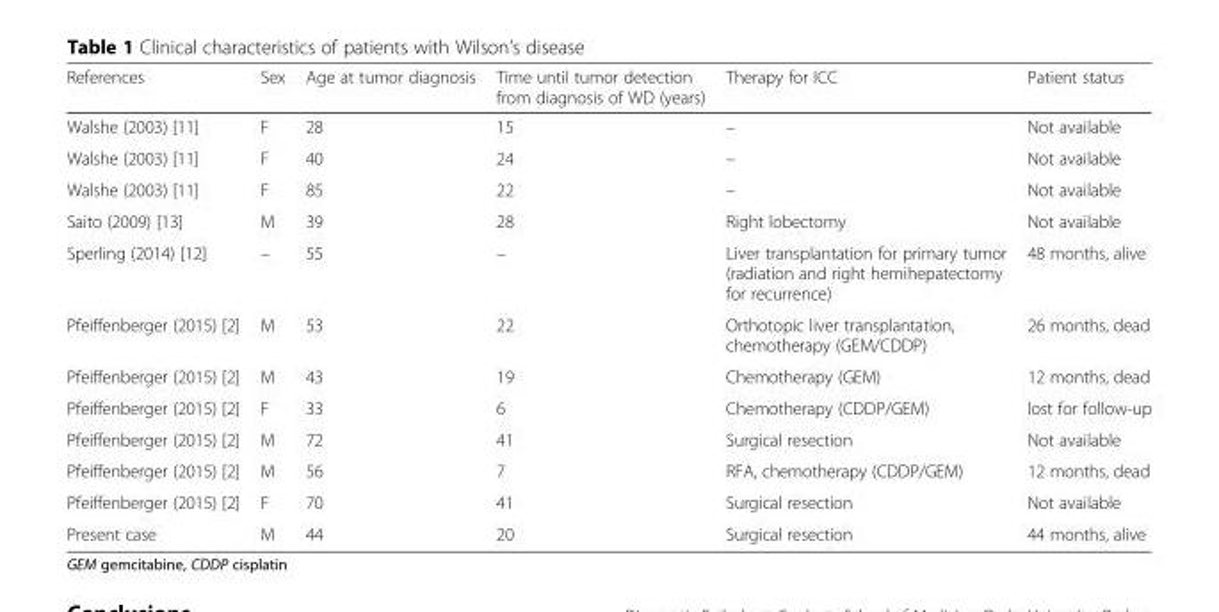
<table><thead><tr><td>References</td><td>Sex</td><td>Age at tumor diagnosis</td><td>Time until tumor detection from diagnosis of WD (years)</td><td>Therapy for ICC</td><td>Patient status</td></tr></thead><tbody><tr><td>Walshe (2003) [11]</td><td>F</td><td>28</td><td>15</td><td>–</td><td>Not available</td></tr><tr><td>Walshe (2003) [11]</td><td>F</td><td>40</td><td>24</td><td>–</td><td>Not available</td></tr><tr><td>Walshe (2003) [11]</td><td>F</td><td>85</td><td>22</td><td>–</td><td>Not available</td></tr><tr><td>Saito (2009) [13]</td><td>M</td><td>39</td><td>28</td><td>Right lobectomy</td><td>Not available</td></tr><tr><td>Sperling (2014) [12]</td><td>–</td><td>55</td><td>–</td><td>Liver transplantation for primary tumor (radiation and right hemihepatectomy for recurrence)</td><td>48 months, alive</td></tr><tr><td>Pfeiffenberger (2015) [2]</td><td>M</td><td>53</td><td>22</td><td>Orthotopic liver transplantation, chemotherapy (GEM/CDDP)</td><td>26 months, dead</td></tr><tr><td>Pfeiffenberger (2015) [2]</td><td>M</td><td>43</td><td>19</td><td>Chemotherapy (GEM)</td><td>12 months, dead</td></tr><tr><td>Pfeiffenberger (2015) [2]</td><td>F</td><td>33</td><td>6</td><td>Chemotherapy (CDDP/GEM)</td><td>lost for follow-up</td></tr><tr><td>Pfeiffenberger (2015) [2]</td><td>M</td><td>72</td><td>41</td><td>Surgical resection</td><td>Not available</td></tr><tr><td>Pfeiffenberger (2015) [2]</td><td>M</td><td>56</td><td>7</td><td>RFA, chemotherapy (CDDP/GEM)</td><td>12 months, dead</td></tr><tr><td>Pfeiffenberger (2015) [2]</td><td>F</td><td>70</td><td>41</td><td>Surgical resection</td><td>Not available</td></tr><tr><td>Present case</td><td>M</td><td>44</td><td>20</td><td>Surgical resection</td><td>44 months, alive</td></tr></tbody></table>